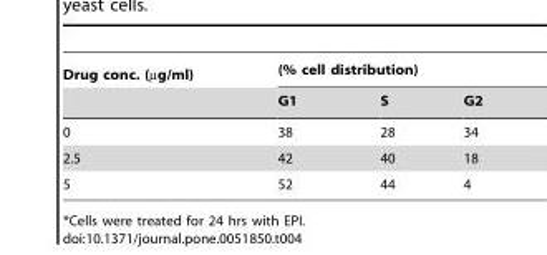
<table><thead><tr><td rowspan="2">Drug conc. (µg/ml)</td><td colspan="3">(% cell distribution)</td></tr><tr><td>G1</td><td>S</td><td>G2</td></tr></thead><tbody><tr><td>0</td><td>38</td><td>28</td><td>34</td></tr><tr><td>2.5</td><td>42</td><td>40</td><td>18</td></tr><tr><td>5</td><td>52</td><td>44</td><td>4</td></tr></tbody></table>